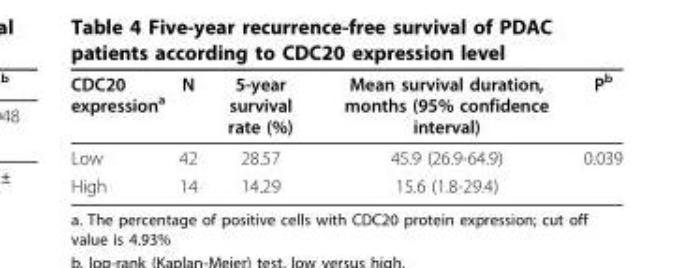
<table><thead><tr><td>CDC20 expression<sup>a</sup></td><td>N</td><td>5-year survival rate (%)</td><td>Mean survival duration, months (95% confidence interval)</td><td>P<sup>b</sup></td></tr></thead><tbody><tr><td>Low</td><td>42</td><td>28.57</td><td>45.9 (26.9-64.9)</td><td>0.039</td></tr><tr><td>High</td><td>14</td><td>14.29</td><td>15.6 (1.8-29.4)</td><td></td></tr></tbody></table>